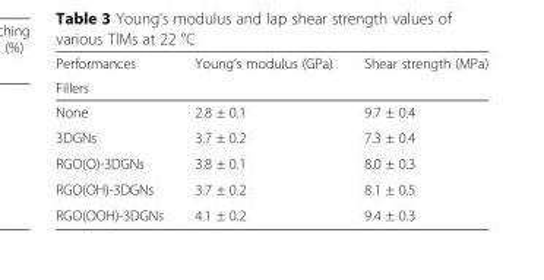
<table><thead><tr><td rowspan="2">Performances Fillers</td><td rowspan="2">Young’s modulus (GPa)</td><td rowspan="2">Shear strength (MPa)</td></tr><tr></tr></thead><tbody><tr><td>None</td><td>2.8 ± 0.1</td><td>9.7 ± 0.4</td></tr><tr><td>3DGNs</td><td>3.7 ± 0.2</td><td>7.3 ± 0.4</td></tr><tr><td>RGO(O)-3DGNs</td><td>3.8 ± 0.1</td><td>8.0 ± 0.3</td></tr><tr><td>RGO(OH)-3DGNs</td><td>3.7 ± 0.2</td><td>8.1 ± 0.5</td></tr><tr><td>RGO(OOH)-3DGNs</td><td>4.1 ± 0.2</td><td>9.4 ± 0.3</td></tr></tbody></table>